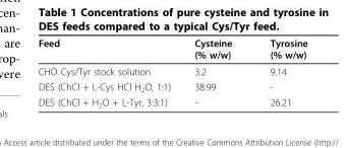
<table><thead><tr><td>Feed</td><td>Cysteine (% w/w)</td><td>Tyrosine (% w/w)</td></tr></thead><tbody><tr><td>CHO Cys/Tyr stock solution</td><td>3.2</td><td>9.14</td></tr><tr><td>DES (ChCl + L-Cys HCl H<sub>2</sub>O, 1:1)</td><td>38.99</td><td>-</td></tr><tr><td>DES (ChCl + H<sub>2</sub>O + L-Tyr, 3:3:1)</td><td>-</td><td>26.21</td></tr></tbody></table>